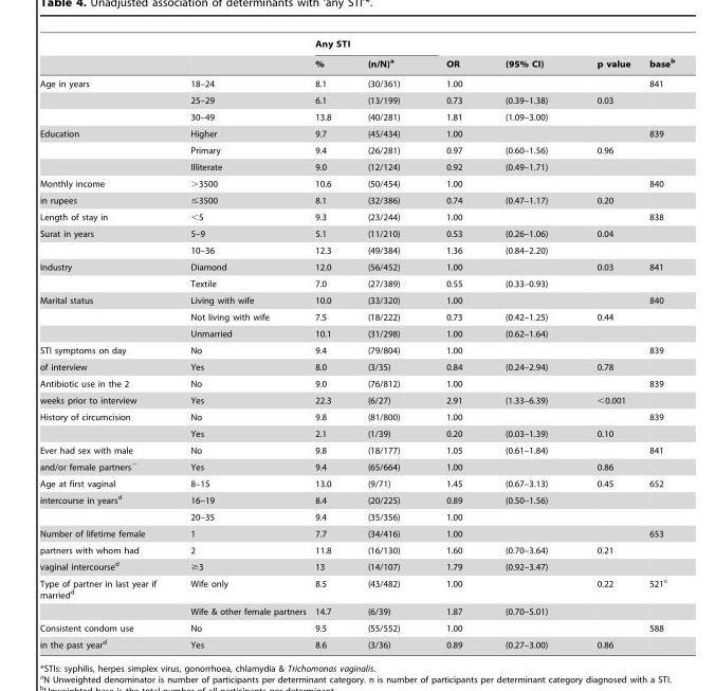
<table><thead><tr><td rowspan="2"></td><td rowspan="2"></td><td colspan="2">Any STI</td><td rowspan="2">OR</td><td rowspan="2">(95% CI)</td><td rowspan="2">p value</td><td rowspan="2">base<sup>b</sup></td></tr><tr><td>%</td><td>(n/N)<sup>a</sup></td></tr></thead><tbody><tr><td rowspan="3">Age in years</td><td>18–24</td><td>8.1</td><td>(30/361)</td><td>1.00</td><td></td><td></td><td>841</td></tr><tr><td>25–29</td><td>6.1</td><td>(13/199)</td><td>0.73</td><td>(0.39–1.38)</td><td>0.03</td><td></td></tr><tr><td>30–49</td><td>13.8</td><td>(40/281)</td><td>1.81</td><td>(1.09–3.00)</td><td></td><td></td></tr><tr><td rowspan="3">Education</td><td>Higher</td><td>9.7</td><td>(45/434)</td><td>1.00</td><td></td><td></td><td>839</td></tr><tr><td>Primary</td><td>9.4</td><td>(26/281)</td><td>0.97</td><td>(0.60–1.56)</td><td>0.96</td><td></td></tr><tr><td>Illiterate</td><td>9.0</td><td>(12/124)</td><td>0.92</td><td>(0.49–1.71)</td><td></td><td></td></tr><tr><td>Monthly income</td><td>&gt;3500</td><td>10.6</td><td>(50/454)</td><td>1.00</td><td></td><td></td><td>840</td></tr><tr><td>in rupees</td><td>≤3500</td><td>8.1</td><td>(32/386)</td><td>0.74</td><td>(0.47–1.17)</td><td>0.20</td><td></td></tr><tr><td>Length of stay in</td><td>&lt;5</td><td>9.3</td><td>(23/244)</td><td>1.00</td><td></td><td></td><td>838</td></tr><tr><td rowspan="2">Surat in years</td><td>5–9</td><td>5.1</td><td>(11/210)</td><td>0.53</td><td>(0.26–1.06)</td><td>0.04</td><td></td></tr><tr><td>10–36</td><td>12.3</td><td>(49/384)</td><td>1.36</td><td>(0.84–2.20)</td><td></td><td></td></tr><tr><td rowspan="2">Industry</td><td>Diamond</td><td>12.0</td><td>(56/452)</td><td>1.00</td><td></td><td>0.03</td><td>841</td></tr><tr><td>Textile</td><td>7.0</td><td>(27/389)</td><td>0.55</td><td>(0.33–0.93)</td><td></td><td></td></tr><tr><td rowspan="3">Marital status</td><td>Living with wife</td><td>10.0</td><td>(33/320)</td><td>1.00</td><td></td><td></td><td>840</td></tr><tr><td>Not living with wife</td><td>7.5</td><td>(18/222)</td><td>0.73</td><td>(0.42–1.25)</td><td>0.44</td><td></td></tr><tr><td>Unmarried</td><td>10.1</td><td>(31/298)</td><td>1.00</td><td>(0.62–1.64)</td><td></td><td></td></tr><tr><td>STI symptoms on day</td><td>No</td><td>9.4</td><td>(79/804)</td><td>1.00</td><td></td><td></td><td>839</td></tr><tr><td>of interview</td><td>Yes</td><td>8.0</td><td>(3/35)</td><td>0.84</td><td>(0.24–2.94)</td><td>0.78</td><td></td></tr><tr><td>Antibiotic use in the 2</td><td>No</td><td>9.0</td><td>(76/812)</td><td>1.00</td><td></td><td></td><td>839</td></tr><tr><td>weeks prior to interview</td><td>Yes</td><td>22.3</td><td>(6/27)</td><td>2.91</td><td>(1.33–6.39)</td><td>&lt;0.001</td><td></td></tr><tr><td rowspan="2">History of circumcision</td><td>No</td><td>9.8</td><td>(81/800)</td><td>1.00</td><td></td><td></td><td>839</td></tr><tr><td>Yes</td><td>2.1</td><td>(1/39)</td><td>0.20</td><td>(0.03–1.39)</td><td>0.10</td><td></td></tr><tr><td>Ever had sex with male</td><td>No</td><td>9.8</td><td>(18/177)</td><td>1.05</td><td>(0.61–1.84)</td><td></td><td>841</td></tr><tr><td>and/or female partners∼</td><td>Yes</td><td>9.4</td><td>(65/664)</td><td>1.00</td><td></td><td>0.86</td><td></td></tr><tr><td>Age at first vaginal</td><td>8–15</td><td>13.0</td><td>(9/71)</td><td>1.45</td><td>(0.67–3.13)</td><td>0.45</td><td>652</td></tr><tr><td rowspan="2">intercourse in years<sup>d</sup></td><td>16–19</td><td>8.4</td><td>(20/225)</td><td>0.89</td><td>(0.50–1.56)</td><td></td><td></td></tr><tr><td>20–35</td><td>9.4</td><td>(35/356)</td><td>1.00</td><td></td><td></td><td></td></tr><tr><td>Number of lifetime female</td><td>1</td><td>7.7</td><td>(34/416)</td><td>1.00</td><td></td><td></td><td>653</td></tr><tr><td>partners with whom had</td><td>2</td><td>11.8</td><td>(16/130)</td><td>1.60</td><td>(0.70–3.64)</td><td>0.21</td><td></td></tr><tr><td>vaginal intercourse<sup>d</sup></td><td>≥3</td><td>13</td><td>(14/107)</td><td>1.79</td><td>(0.92–3.47)</td><td></td><td></td></tr><tr><td rowspan="2">Type of partner in last year if married<sup>d</sup></td><td>Wife only</td><td>8.5</td><td>(43/482)</td><td>1.00</td><td></td><td>0.22</td><td>521<sup>c</sup></td></tr><tr><td>Wife &amp; other female partners</td><td>14.7</td><td>(6/39)</td><td>1.87</td><td>(0.70–5.01)</td><td></td><td></td></tr><tr><td>Consistent condom use</td><td>No</td><td>9.5</td><td>(55/552)</td><td>1.00</td><td></td><td></td><td>588</td></tr><tr><td>in the past year<sup>d</sup></td><td>Yes</td><td>8.6</td><td>(3/36)</td><td>0.89</td><td>(0.27–3.00)</td><td>0.86</td><td></td></tr></tbody></table>